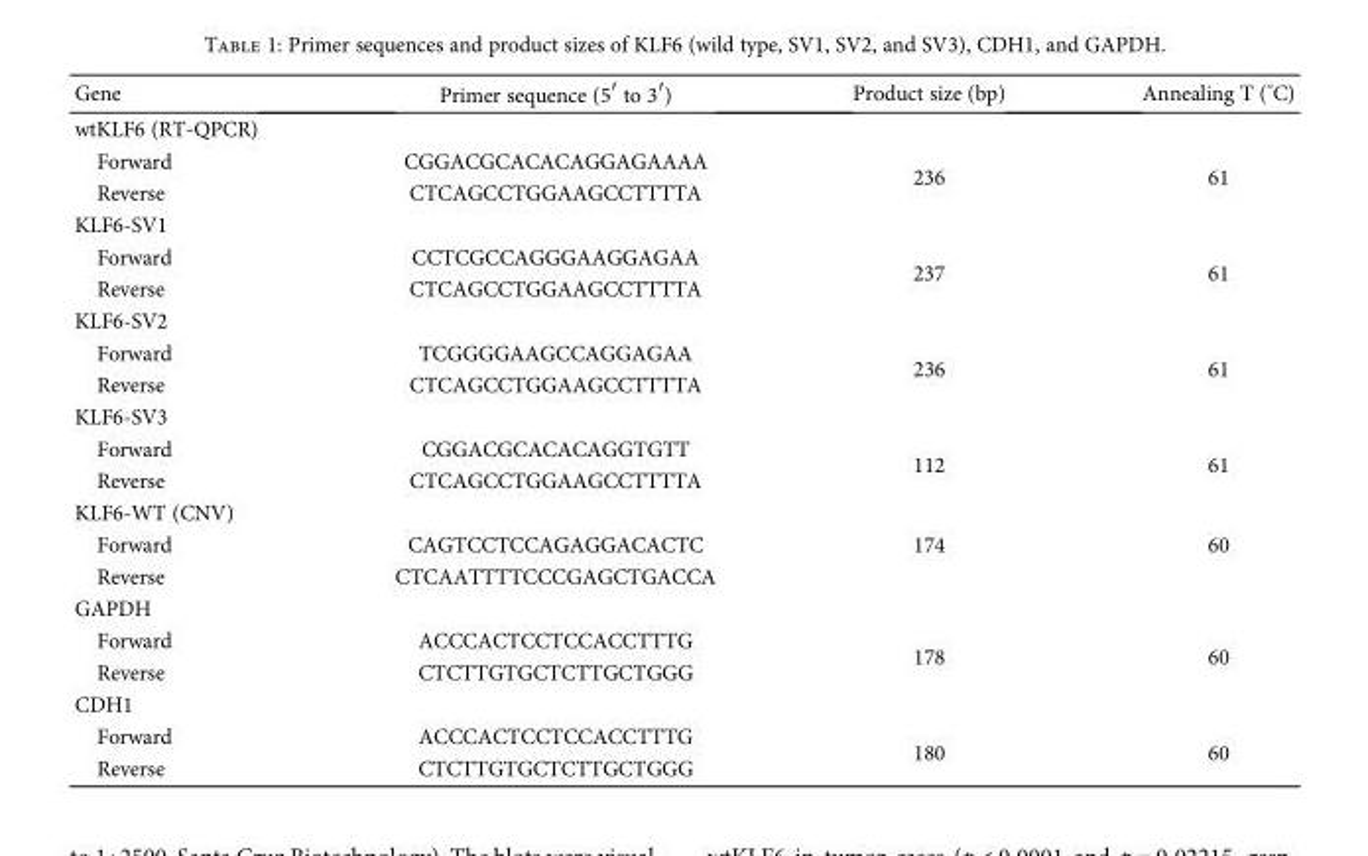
<table><thead><tr><td>Gene</td><td>Primer sequence (5′ to 3′)</td><td>Product size (bp)</td><td>Annealing T (°C)</td></tr></thead><tbody><tr><td colspan="4">wtKLF6 (RT-QPCR)</td></tr><tr><td>Forward</td><td>CGGACGCACACAGGAGAAAA</td><td rowspan="2">236</td><td rowspan="2">61</td></tr><tr><td>Reverse</td><td>CTCAGCCTGGAAGCCTTTTA</td></tr><tr><td colspan="4">KLF6-SV1</td></tr><tr><td>Forward</td><td>CCTCGCCAGGGAAGGAGAA</td><td rowspan="2">237</td><td rowspan="2">61</td></tr><tr><td>Reverse</td><td>CTCAGCCTGGAAGCCTTTTA</td></tr><tr><td colspan="4">KLF6-SV2</td></tr><tr><td>Forward</td><td>TCGGGGAAGCCAGGAGAA</td><td rowspan="2">236</td><td rowspan="2">61</td></tr><tr><td>Reverse</td><td>CTCAGCCTGGAAGCCTTTTA</td></tr><tr><td colspan="4">KLF6-SV3</td></tr><tr><td>Forward</td><td>CGGACGCACACAGGTGTT</td><td rowspan="2">112</td><td rowspan="2">61</td></tr><tr><td>Reverse</td><td>CTCAGCCTGGAAGCCTTTTA</td></tr><tr><td colspan="4">KLF6-WT (CNV)</td></tr><tr><td>Forward</td><td>CAGTCCTCCAGAGGACACTC</td><td>174</td><td>60</td></tr><tr><td>Reverse</td><td>CTCAATTTTCCCGAGCTGACCA</td><td></td><td></td></tr><tr><td colspan="4">GAPDH</td></tr><tr><td>Forward</td><td>ACCCACTCCTCCACCTTTG</td><td rowspan="2">178</td><td rowspan="2">60</td></tr><tr><td>Reverse</td><td>CTCTTGTGCTCTTGCTGGG</td></tr><tr><td colspan="4">CDH1</td></tr><tr><td>Forward</td><td>ACCCACTCCTCCACCTTTG</td><td rowspan="2">180</td><td rowspan="2">60</td></tr><tr><td>Reverse</td><td>CTCTTGTGCTCTTGCTGGG</td></tr></tbody></table>